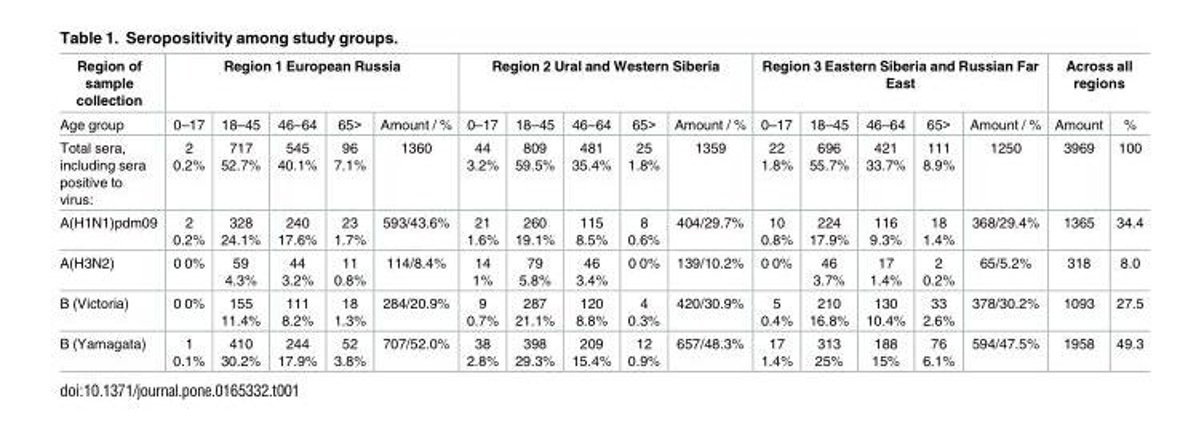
<table><thead><tr><td rowspan="2">Region of sample collection Age group</td><td colspan="5">Region 1 European Russia</td><td colspan="5">Region 2 Ural and Western Siberia</td><td colspan="5">Region 3 Eastern Siberia and Russian Far East</td><td colspan="2">Across all regions</td></tr><tr><td>0–17</td><td>18–45</td><td>46–64</td><td>65&gt;</td><td>Amount / %</td><td>0–17</td><td>18–45</td><td>46–64</td><td>65&gt;</td><td>Amount / %</td><td>0–17</td><td>18–45</td><td>46–64</td><td>65&gt;</td><td>Amount / %</td><td>Amount</td><td>%</td></tr></thead><tbody><tr><td>Total sera, including sera positive to virus:</td><td>2 0.2%</td><td>717 52.7%</td><td>545 40.1%</td><td>96 7.1%</td><td>1360</td><td>44 3.2%</td><td>809 59.5%</td><td>481 35.4%</td><td>25 1.8%</td><td>1359</td><td>22 1.8%</td><td>696 55.7%</td><td>421 33.7%</td><td>111 8.9%</td><td>1250</td><td>3969</td><td>100</td></tr><tr><td>A(H1N1)pdm09</td><td>2 0.2%</td><td>328 24.1%</td><td>240 17.6%</td><td>23 1.7%</td><td>593/43.6%</td><td>21 1.6%</td><td>260 19.1%</td><td>115 8.5%</td><td>8 0.6%</td><td>404/29.7%</td><td>10 0.8%</td><td>224 17.9%</td><td>116 9.3%</td><td>18 1.4%</td><td>368/29.4%</td><td>1365</td><td>34.4</td></tr><tr><td>A(H3N2)</td><td>0 0%</td><td>59 4.3%</td><td>44 3.2%</td><td>11 0.8%</td><td>114/8.4%</td><td>14 1%</td><td>79 5.8%</td><td>46 3.4%</td><td>0 0%</td><td>139/10.2%</td><td>0 0%</td><td>46 3.7%</td><td>17 1.4%</td><td>2 0.2%</td><td>65/5.2%</td><td>318</td><td>8.0</td></tr><tr><td>B (Victoria)</td><td>0 0%</td><td>155 11.4%</td><td>111 8.2%</td><td>18 1.3%</td><td>284/20.9%</td><td>9 0.7%</td><td>287 21.1%</td><td>120 8.8%</td><td>4 0.3%</td><td>420/30.9%</td><td>5 0.4%</td><td>210 16.8%</td><td>130 10.4%</td><td>33 2.6%</td><td>378/30.2%</td><td>1093</td><td>27.5</td></tr><tr><td>B (Yamagata)</td><td>1 0.1%</td><td>410 30.2%</td><td>244 17.9%</td><td>52 3.8%</td><td>707/52.0%</td><td>38 2.8%</td><td>398 29.3%</td><td>209 15.4%</td><td>12 0.9%</td><td>657/48.3%</td><td>17 1.4%</td><td>313 25%</td><td>188 15%</td><td>76 6.1%</td><td>594/47.5%</td><td>1958</td><td>49.3</td></tr></tbody></table>